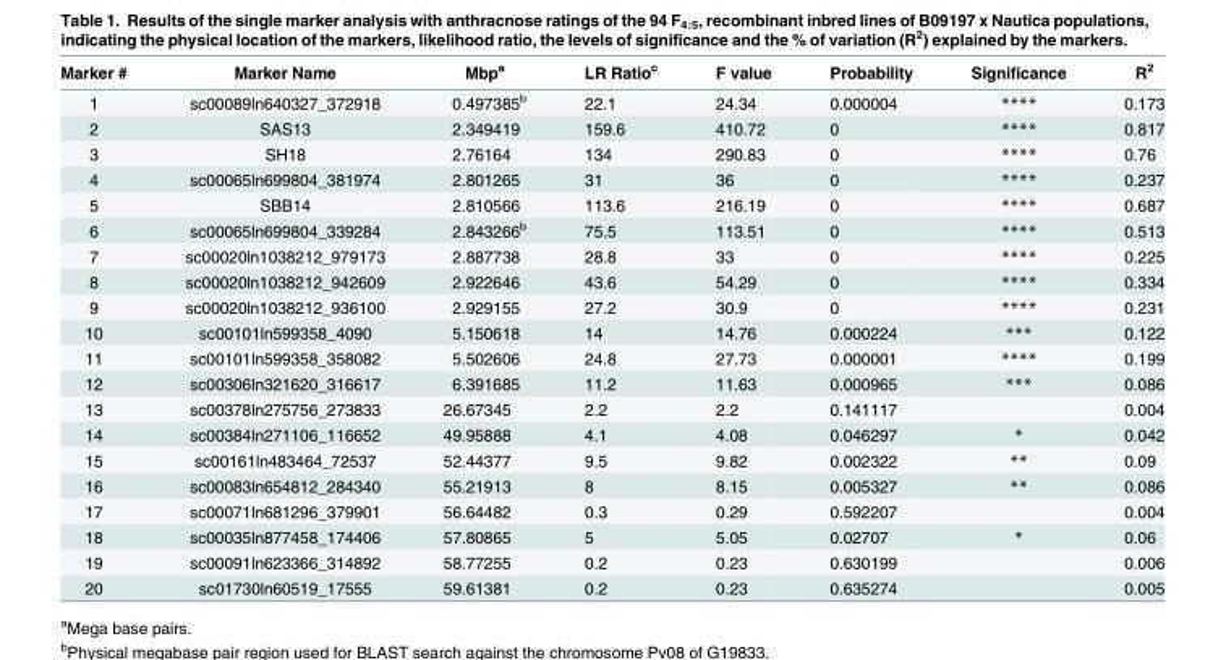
<table><thead><tr><td>Marker #</td><td>Marker Name</td><td>Mbp<sup>a</sup></td><td>LR Ratio<sup>c</sup></td><td>F value</td><td>Probability</td><td>Significance</td><td>R<sup>2</sup></td></tr></thead><tbody><tr><td>1</td><td>sc00089ln640327_372918</td><td>0.497385<sup>b</sup></td><td>22.1</td><td>24.34</td><td>0.000004</td><td>****</td><td>0.173</td></tr><tr><td>2</td><td>SAS13</td><td>2.349419</td><td>159.6</td><td>410.72</td><td>0</td><td>****</td><td>0.817</td></tr><tr><td>3</td><td>SH18</td><td>2.76164</td><td>134</td><td>290.83</td><td>0</td><td>****</td><td>0.76</td></tr><tr><td>4</td><td>sc00065ln699804_381974</td><td>2.801265</td><td>31</td><td>36</td><td>0</td><td>****</td><td>0.237</td></tr><tr><td>5</td><td>SBB14</td><td>2.810566</td><td>113.6</td><td>216.19</td><td>0</td><td>****</td><td>0.687</td></tr><tr><td>6</td><td>sc00065ln699804_339284</td><td>2.843266<sup>b</sup></td><td>75.5</td><td>113.51</td><td>0</td><td>****</td><td>0.513</td></tr><tr><td>7</td><td>sc00020ln1038212_979173</td><td>2.887738</td><td>28.8</td><td>33</td><td>0</td><td>****</td><td>0.225</td></tr><tr><td>8</td><td>sc00020ln1038212_942609</td><td>2.922646</td><td>43.6</td><td>54.29</td><td>0</td><td>****</td><td>0.334</td></tr><tr><td>9</td><td>sc00020ln1038212_936100</td><td>2.929155</td><td>27.2</td><td>30.9</td><td>0</td><td>****</td><td>0.231</td></tr><tr><td>10</td><td>sc00101ln599358_4090</td><td>5.150618</td><td>14</td><td>14.76</td><td>0.000224</td><td>***</td><td>0.122</td></tr><tr><td>11</td><td>sc00101ln599358_358082</td><td>5.502606</td><td>24.8</td><td>27.73</td><td>0.000001</td><td>****</td><td>0.199</td></tr><tr><td>12</td><td>sc00306ln321620_316617</td><td>6.391685</td><td>11.2</td><td>11.63</td><td>0.000965</td><td>***</td><td>0.086</td></tr><tr><td>13</td><td>sc00378ln275756_273833</td><td>26.67345</td><td>2.2</td><td>2.2</td><td>0.141117</td><td></td><td>0.004</td></tr><tr><td>14</td><td>sc00384ln271106_116652</td><td>49.95888</td><td>4.1</td><td>4.08</td><td>0.046297</td><td>*</td><td>0.042</td></tr><tr><td>15</td><td>sc00161ln483464_72537</td><td>52.44377</td><td>9.5</td><td>9.82</td><td>0.002322</td><td>**</td><td>0.09</td></tr><tr><td>16</td><td>sc00083ln654812_284340</td><td>55.21913</td><td>8</td><td>8.15</td><td>0.005327</td><td>**</td><td>0.086</td></tr><tr><td>17</td><td>sc00071ln681296_379901</td><td>56.64482</td><td>0.3</td><td>0.29</td><td>0.592207</td><td></td><td>0.004</td></tr><tr><td>18</td><td>sc00035ln877458_174406</td><td>57.80865</td><td>5</td><td>5.05</td><td>0.02707</td><td>*</td><td>0.06</td></tr><tr><td>19</td><td>sc00091ln623366_314892</td><td>58.77255</td><td>0.2</td><td>0.23</td><td>0.630199</td><td></td><td>0.006</td></tr><tr><td>20</td><td>sc01730ln60519_17555</td><td>59.61381</td><td>0.2</td><td>0.23</td><td>0.635274</td><td></td><td>0.005</td></tr></tbody></table>